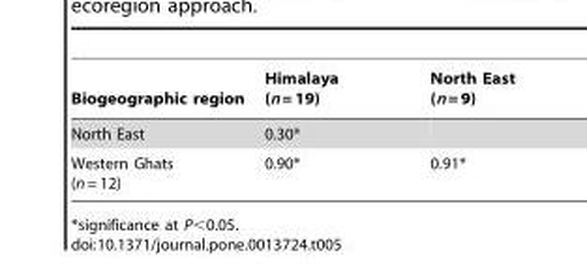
<table><thead><tr><td>Biogeographic region</td><td>Himalaya (n = 19)</td><td>North East (n = 9)</td></tr></thead><tbody><tr><td>North East</td><td>0.30*</td><td></td></tr><tr><td>Western Ghats (n = 12)</td><td>0.90*</td><td>0.91*</td></tr></tbody></table>